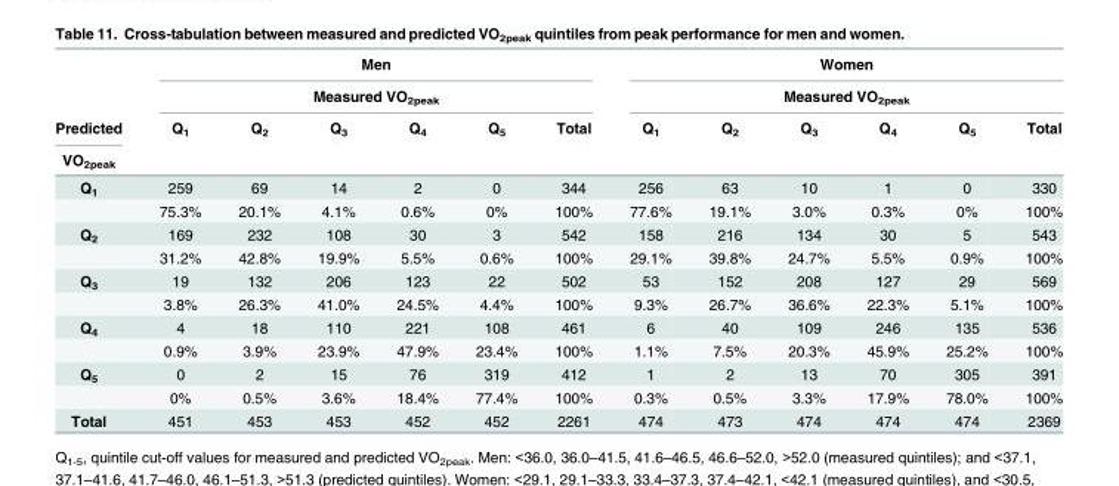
<table><thead><tr><td rowspan="4">Predicted VO<sub>2peak</sub></td><td rowspan="2" colspan="6">Men Measured VO<sub>2peak</sub></td><td rowspan="2" colspan="6">Women Measured VO<sub>2peak</sub></td></tr><tr></tr><tr><td rowspan="2">Q1</td><td rowspan="2">Q<sub>2</sub></td><td rowspan="2">Q<sub>3</sub></td><td rowspan="2">Q<sub>4</sub></td><td rowspan="2">Q<sub>5</sub></td><td rowspan="2">Total</td><td rowspan="2">Q<sub>1</sub></td><td rowspan="2">Q<sub>2</sub></td><td rowspan="2">Q<sub>3</sub></td><td rowspan="2">Q<sub>4</sub></td><td rowspan="2">Q<sub>5</sub></td><td rowspan="2">Total</td></tr><tr></tr></thead><tbody><tr><td rowspan="2">Q1</td><td>259</td><td>69</td><td>14</td><td>2</td><td>0</td><td>344</td><td>256</td><td>63</td><td>10</td><td>1</td><td>0</td><td>330</td></tr><tr><td>75.3%</td><td>20.1%</td><td>4.1%</td><td>0.6%</td><td>0%</td><td>100%</td><td>77.6%</td><td>19.1%</td><td>3.0%</td><td>0.3%</td><td>0%</td><td>100%</td></tr><tr><td rowspan="2">Q<sub>2</sub></td><td>169</td><td>232</td><td>108</td><td>30</td><td>3</td><td>542</td><td>158</td><td>216</td><td>134</td><td>30</td><td>5</td><td>543</td></tr><tr><td>31.2%</td><td>42.8%</td><td>19.9%</td><td>5.5%</td><td>0.6%</td><td>100%</td><td>29.1%</td><td>39.8%</td><td>24.7%</td><td>5.5%</td><td>0.9%</td><td>100%</td></tr><tr><td rowspan="2">Q<sub>3</sub></td><td>19</td><td>132</td><td>206</td><td>123</td><td>22</td><td>502</td><td>53</td><td>152</td><td>208</td><td>127</td><td>29</td><td>569</td></tr><tr><td>3.8%</td><td>26.3%</td><td>41.0%</td><td>24.5%</td><td>4.4%</td><td>100%</td><td>9.3%</td><td>26.7%</td><td>36.6%</td><td>22.3%</td><td>5.1%</td><td>100%</td></tr><tr><td rowspan="2">Q<sub>4</sub></td><td>4</td><td>18</td><td>110</td><td>221</td><td>108</td><td>461</td><td>6</td><td>40</td><td>109</td><td>246</td><td>135</td><td>536</td></tr><tr><td>0.9%</td><td>3.9%</td><td>23.9%</td><td>47.9%</td><td>23.4%</td><td>100%</td><td>1.1%</td><td>7.5%</td><td>20.3%</td><td>45.9%</td><td>25.2%</td><td>100%</td></tr><tr><td rowspan="2">Q<sub>5</sub></td><td>0</td><td>2</td><td>15</td><td>76</td><td>319</td><td>412</td><td>1</td><td>2</td><td>13</td><td>70</td><td>305</td><td>391</td></tr><tr><td>0%</td><td>0.5%</td><td>3.6%</td><td>18.4%</td><td>77.4%</td><td>100%</td><td>0.3%</td><td>0.5%</td><td>3.3%</td><td>17.9%</td><td>78.0%</td><td>100%</td></tr><tr><td>Total</td><td>451</td><td>453</td><td>453</td><td>452</td><td>452</td><td>2261</td><td>474</td><td>473</td><td>474</td><td>474</td><td>474</td><td>2369</td></tr></tbody></table>